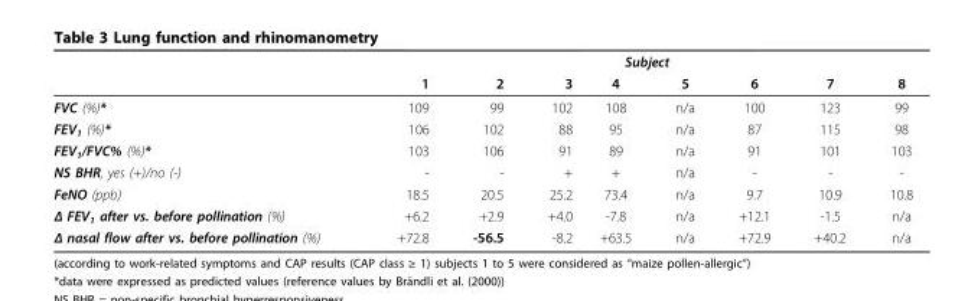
<table><thead><tr><td rowspan="2"></td><td colspan="8">Subject</td></tr><tr><td>1</td><td>2</td><td>3</td><td>4</td><td>5</td><td>6</td><td>7</td><td>8</td></tr></thead><tbody><tr><td>FVC (%)*</td><td>109</td><td>99</td><td>102</td><td>108</td><td>n/a</td><td>100</td><td>123</td><td>99</td></tr><tr><td>FEV<sub>1</sub> (%)*</td><td>106</td><td>102</td><td>88</td><td>95</td><td>n/a</td><td>87</td><td>115</td><td>98</td></tr><tr><td>FEV<sub>1</sub>/FVC% (%)*</td><td>103</td><td>106</td><td>91</td><td>89</td><td>n/a</td><td>91</td><td>101</td><td>103</td></tr><tr><td>NS BHR, yes (+)/no (-)</td><td>-</td><td>-</td><td>+</td><td>+</td><td>n/a</td><td>-</td><td>-</td><td>-</td></tr><tr><td>FeNO (ppb)</td><td>18.5</td><td>20.5</td><td>25.2</td><td>73.4</td><td>n/a</td><td>9.7</td><td>10.9</td><td>10.8</td></tr><tr><td>Δ FEV<sub>1</sub> after vs. before pollination (%)</td><td>+6.2</td><td>+2.9</td><td>+4.0</td><td>-7.8</td><td>n/a</td><td>+12.1</td><td>-1.5</td><td>n/a</td></tr><tr><td>Δ nasal flow after vs. before pollination (%)</td><td>+72.8</td><td>-56.5</td><td>-8.2</td><td>+63.5</td><td>n/a</td><td>+72.9</td><td>+40.2</td><td>n/a</td></tr></tbody></table>